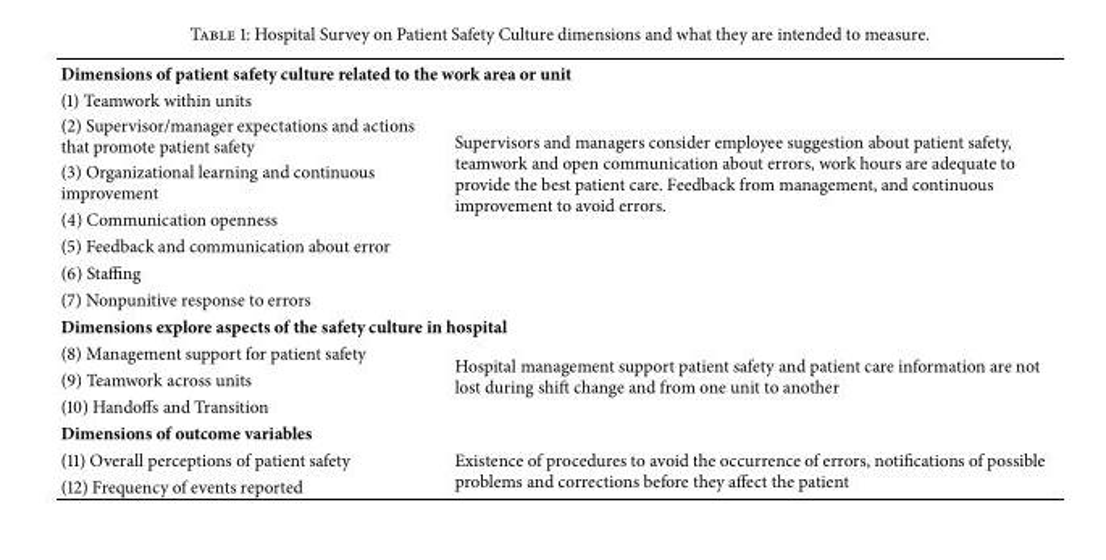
<table><tbody><tr><td colspan="2">Dimensions of patient safety culture related to the work area or unit</td></tr><tr><td>(1) Teamwork within units</td><td rowspan="7">Supervisors and managers consider employee suggestion about patient safety, teamwork and open communication about errors, work hours are adequate to provide the best patient care. Feedback from management, and continuous improvement to avoid errors.</td></tr><tr><td>(2) Supervisor/manager expectations and actions that promote patient safety</td></tr><tr><td>(3) Organizational learning and continuous improvement</td></tr><tr><td>(4) Communication openness</td></tr><tr><td>(5) Feedback and communication about error</td></tr><tr><td>(6) Staffing</td></tr><tr><td>(7) Nonpunitive response to errors</td></tr><tr><td colspan="2">Dimensions explore aspects of the safety culture in hospital</td></tr><tr><td>(8) Management support for patient safety</td><td rowspan="3">Hospital management support patient safety and patient care information are not lost during shift change and from one unit to another</td></tr><tr><td>(9) Teamwork across units</td></tr><tr><td>(10) Handoffs and Transition</td></tr><tr><td colspan="2">Dimensions of outcome variables</td></tr><tr><td>(11) Overall perceptions of patient safety</td><td rowspan="2">Existence of procedures to avoid the occurrence of errors, notifications of possible problems and corrections before they affect the patient</td></tr><tr><td>(12) Frequency of events reported</td></tr></tbody></table>